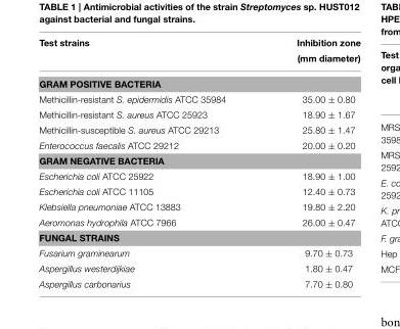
<table><thead><tr><td>Test strains</td><td>Inhibition zone (mm diameter)</td></tr></thead><tbody><tr><td colspan="2">GRAM POSITIVE BACTERIA</td></tr><tr><td>Methicillin-resistant S. epidermidis ATCC 35984</td><td>35.00 ± 0.80</td></tr><tr><td>Methicillin-resistant S. aureus ATCC 25923</td><td>18.90 ± 1.67</td></tr><tr><td>Methicillin-susceptible S. aureus ATCC 29213</td><td>25.80 ± 1.47</td></tr><tr><td>Enterococcus faecalis ATCC 29212</td><td>20.00 ± 0.20</td></tr><tr><td colspan="2">GRAM NEGATIVE BACTERIA</td></tr><tr><td>Escherichia coli ATCC 25922</td><td>18.90 ± 1.00</td></tr><tr><td>Escherichia coli ATCC 11105</td><td>12.40 ± 0.73</td></tr><tr><td>Klebsiella pneumoniae ATCC 13883</td><td>19.80 ± 2.20</td></tr><tr><td>Aeromonas hydrophila ATCC 7966</td><td>26.00 ± 0.47</td></tr><tr><td colspan="2">FUNGAL STRAINS</td></tr><tr><td>Fusarium graminearum</td><td>9.70 ± 0.73</td></tr><tr><td>Aspergillus westerdijkiae</td><td>1.80 ± 0.47</td></tr><tr><td>Aspergillus carbonarius</td><td>7.70 ± 0.80</td></tr></tbody></table>